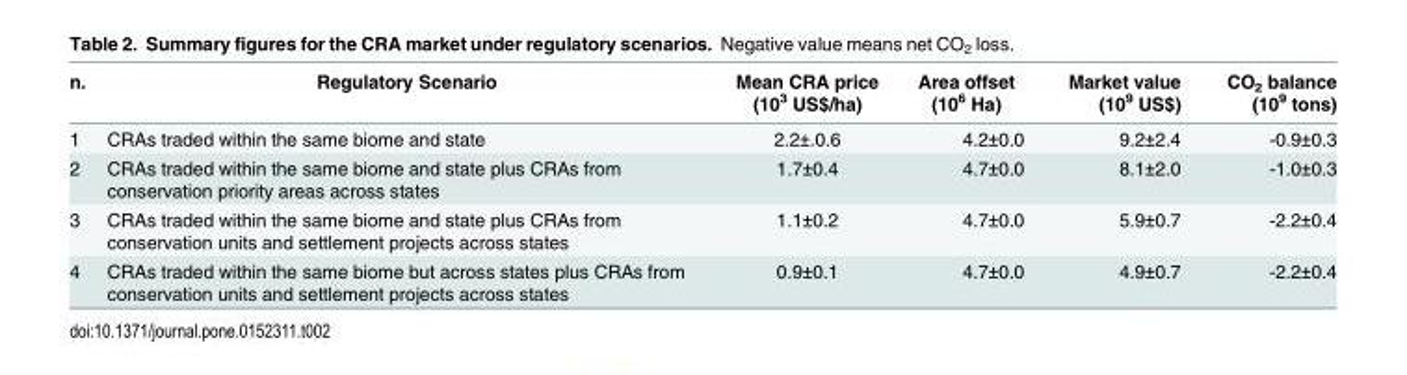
<table><thead><tr><td>n.</td><td>Regulatory Scenario</td><td>Mean CRA price (10<sup>3</sup> US$/ha)</td><td>Area offset (10<sup>6</sup> Ha)</td><td>Market value (10<sup>9</sup> US$)</td><td>CO<sub>2</sub> balance (10<sup>9</sup> tons)</td></tr></thead><tbody><tr><td>1</td><td>CRAs traded within the same biome and state</td><td>2.2±.0.6</td><td>4.2±0.0</td><td>9.2±2.4</td><td>-0.9±0.3</td></tr><tr><td>2</td><td>CRAs traded within the same biome and state plus CRAs from conservation priority areas across states</td><td>1.7±0.4</td><td>4.7±0.0</td><td>8.1±2.0</td><td>-1.0±0.3</td></tr><tr><td>3</td><td>CRAs traded within the same biome and state plus CRAs from conservation units and settlement projects across states</td><td>1.1±0.2</td><td>4.7±0.0</td><td>5.9±0.7</td><td>-2.2±0.4</td></tr><tr><td>4</td><td>CRAs traded within the same biome but across states plus CRAs from conservation units and settlement projects across states</td><td>0.9±0.1</td><td>4.7±0.0</td><td>4.9±0.7</td><td>-2.2±0.4</td></tr></tbody></table>